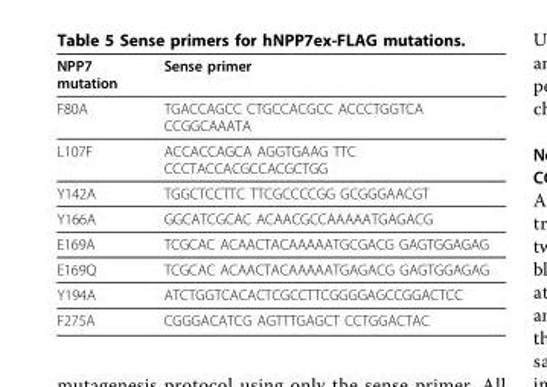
<table><thead><tr><td>NPP7 mutation</td><td>Sense primer</td></tr></thead><tbody><tr><td>F80A</td><td>TGACCAGCC CTGCCACGCC ACCCTGGTCA CCGGCAAATA</td></tr><tr><td>L107F</td><td>ACCACCAGCA AGGTGAAG TTC CCCTACCACGCCACGCTGG</td></tr><tr><td>Y142A</td><td>TGGCTCCTTC TTCGCCCCGG GCGGGAACGT</td></tr><tr><td>Y166A</td><td>GGCATCGCAC ACAACGCCAAAAATGAGACG</td></tr><tr><td>E169A</td><td>TCGCAC ACAACTACAAAAATGCGACG GAGTGGAGAG</td></tr><tr><td>E169Q</td><td>TCGCAC ACAACTACAAAAATGAGACG GAGTGGAGAG</td></tr><tr><td>Y194A</td><td>ATCTGGTCACACTCGCCTTCGGGGAGCCGGACTCC</td></tr><tr><td>F275A</td><td>CGGGACATCG AGTTTGAGCT CCTGGACTAC</td></tr></tbody></table>